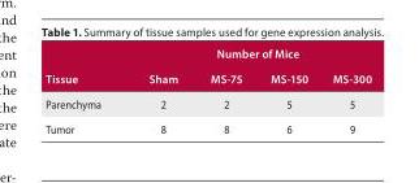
<table><thead><tr><td rowspan="2">Tissue</td><td colspan="4">Number of Mice</td></tr><tr><td>Sham</td><td>MS-75</td><td>MS-150</td><td>MS-300</td></tr></thead><tbody><tr><td>Parenchyma</td><td>2</td><td>2</td><td>5</td><td>5</td></tr><tr><td>Tumor</td><td>8</td><td>8</td><td>6</td><td>9</td></tr></tbody></table>